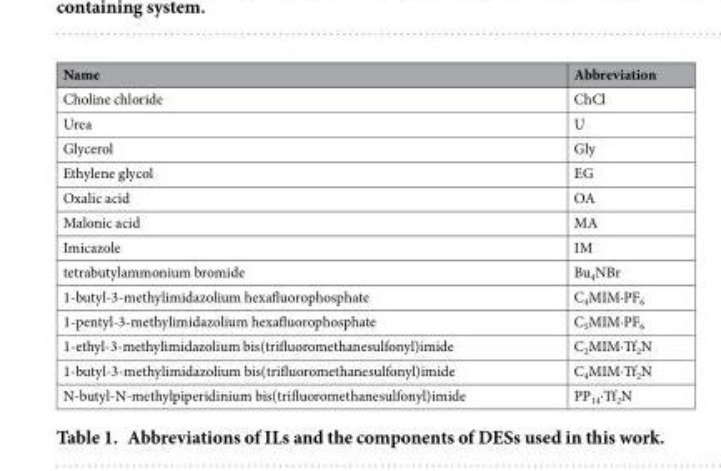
<table><thead><tr><td>Name</td><td>Abbreviation</td></tr></thead><tbody><tr><td>Choline chloride</td><td>ChCl</td></tr><tr><td>Urea</td><td>U</td></tr><tr><td>Glycerol</td><td>Gly</td></tr><tr><td>Ethylene glycol</td><td>EG</td></tr><tr><td>Oxalic acid</td><td>OA</td></tr><tr><td>Malonic acid</td><td>MA</td></tr><tr><td>Imicazole</td><td>IM</td></tr><tr><td>tetrabutylammonium bromide</td><td>Bu<sub>4</sub>NBr</td></tr><tr><td>1-butyl-3-methylimidazolium hexafluorophosphate</td><td>C<sub>4</sub>MIM·PF<sub>6</sub></td></tr><tr><td>1-pentyl-3-methylimidazolium hexafluorophosphate</td><td>C<sub>5</sub>MIM·PF<sub>6</sub></td></tr><tr><td>1-ethyl-3-methylimidazolium bis(trifluoromethanesulfonyl)imide</td><td>C<sub>2</sub>MIM·Tf<sub>2</sub>N</td></tr><tr><td>1-butyl-3-methylimidazolium bis(trifluoromethanesulfonyl)imide</td><td>C<sub>4</sub>MIM·Tf<sub>2</sub>N</td></tr><tr><td>N-butyl-N-methylpiperidinium bis(trifluoromethanesulfonyl)imide</td><td>PP<sub>14</sub>·Tf<sub>2</sub>N</td></tr></tbody></table>